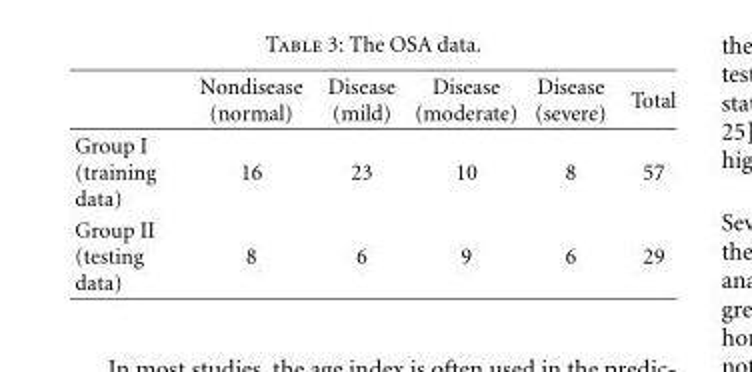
<table><thead><tr><td></td><td>Nondisease (normal)</td><td>Disease (mild)</td><td>Disease (moderate)</td><td>Disease (severe)</td><td>Total</td></tr></thead><tbody><tr><td>Group I (training data)</td><td>16</td><td>23</td><td>10</td><td>8</td><td>57</td></tr><tr><td>Group II (testing data)</td><td>8</td><td>6</td><td>9</td><td>6</td><td>29</td></tr></tbody></table>